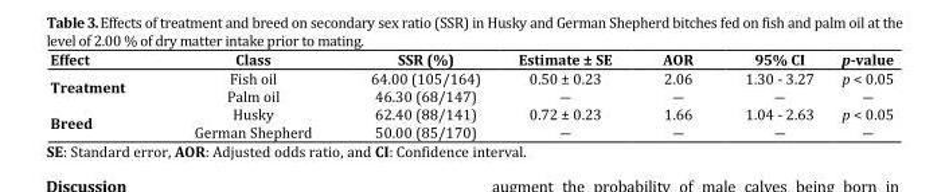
<table><thead><tr><td>Effect</td><td>Class</td><td>SSR (%)</td><td>Estimate ± SE</td><td>AOR</td><td>95% CI</td><td>p-value</td></tr></thead><tbody><tr><td rowspan="2">Treatment</td><td>Fish oil</td><td>64.00 (105/164)</td><td>0.50 ± 0.23</td><td>2.06</td><td>1.30 - 3.27</td><td>p &lt; 0.05</td></tr><tr><td>Palm oil</td><td>46.30 (68/147)</td><td>―</td><td>―</td><td>―</td><td>―</td></tr><tr><td rowspan="2">Breed</td><td>Husky</td><td>62.40 (88/141)</td><td>0.72 ± 0.23</td><td>1.66</td><td>1.04 - 2.63</td><td>p &lt; 0.05</td></tr><tr><td>German Shepherd</td><td>50.00 (85/170)</td><td>―</td><td>―</td><td>―</td><td>―</td></tr></tbody></table>